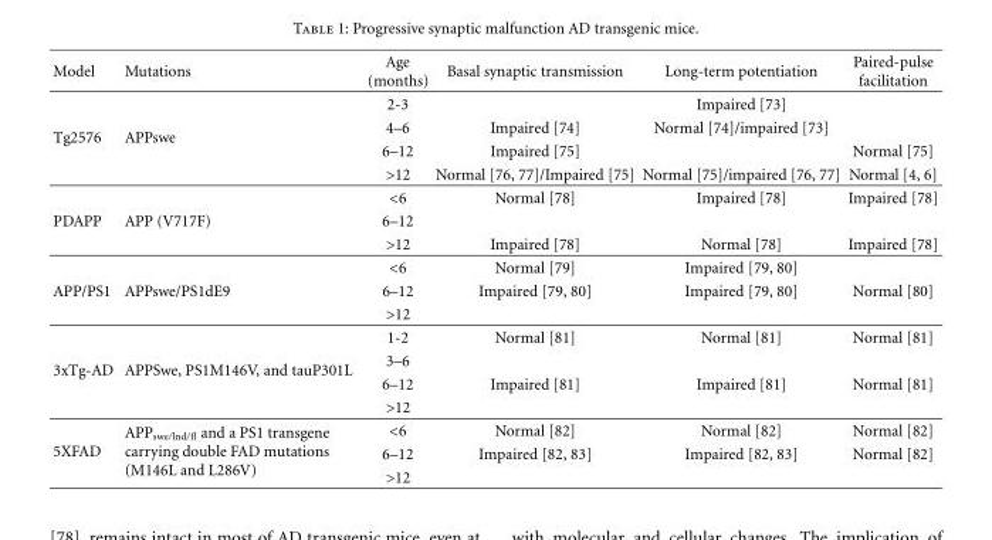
<table><thead><tr><td>Model</td><td>Mutations</td><td>Age (months)</td><td>Basal synaptic transmission</td><td>Long-term potentiation</td><td>Paired-pulse facilitation</td></tr></thead><tbody><tr><td></td><td></td><td>2-3</td><td></td><td>Impaired [73]</td><td></td></tr><tr><td rowspan="4">Tg2576</td><td rowspan="2">APPswe</td><td>4–6</td><td>Impaired [74]</td><td>Normal [74]/impaired [73]</td><td></td></tr><tr><td>6–12</td><td>Impaired [75]</td><td></td><td>Normal [75]</td></tr><tr><td></td><td>&gt;12</td><td>Normal [76, 77]/Impaired [75]</td><td>Normal [75]/impaired [76, 77]</td><td>Normal [4, 6]</td></tr><tr><td></td><td>&lt;6</td><td>Normal [78]</td><td>Impaired [78]</td><td>Impaired [78]</td></tr><tr><td rowspan="3">PDAPP</td><td>APP (V717F)</td><td>6–12</td><td></td><td></td><td></td></tr><tr><td></td><td>&gt;12</td><td>Impaired [78]</td><td>Normal [78]</td><td>Impaired [78]</td></tr><tr><td></td><td>&lt;6</td><td>Normal [79]</td><td>Impaired [79, 80]</td><td></td></tr><tr><td rowspan="3">APP/PS1</td><td>APPswe/PS1dE9</td><td>6–12</td><td>Impaired [79, 80]</td><td>Impaired [79, 80]</td><td>Normal [80]</td></tr><tr><td></td><td>&gt;12</td><td></td><td></td><td></td></tr><tr><td></td><td>1-2</td><td>Normal [81]</td><td>Normal [81]</td><td>Normal [81]</td></tr><tr><td rowspan="3">3xTg-AD</td><td rowspan="2">APPSwe, PS1M146V, and tauP301L</td><td>3–6</td><td></td><td></td><td></td></tr><tr><td>6–12</td><td>Impaired [81]</td><td>Impaired [81]</td><td>Normal [81]</td></tr><tr><td></td><td>&gt;12</td><td></td><td></td><td></td></tr><tr><td rowspan="3">5XFAD</td><td rowspan="3">APP<sub>swe/lnd/fl</sub> and a PS1 transgene carrying double FAD mutations (M146L and L286V)</td><td>&lt;6</td><td>Normal [82]</td><td>Normal [82]</td><td>Normal [82]</td></tr><tr><td>6–12</td><td>Impaired [82, 83]</td><td>Impaired [82, 83]</td><td>Normal [82]</td></tr><tr><td>&gt;12</td><td></td><td></td><td></td></tr></tbody></table>